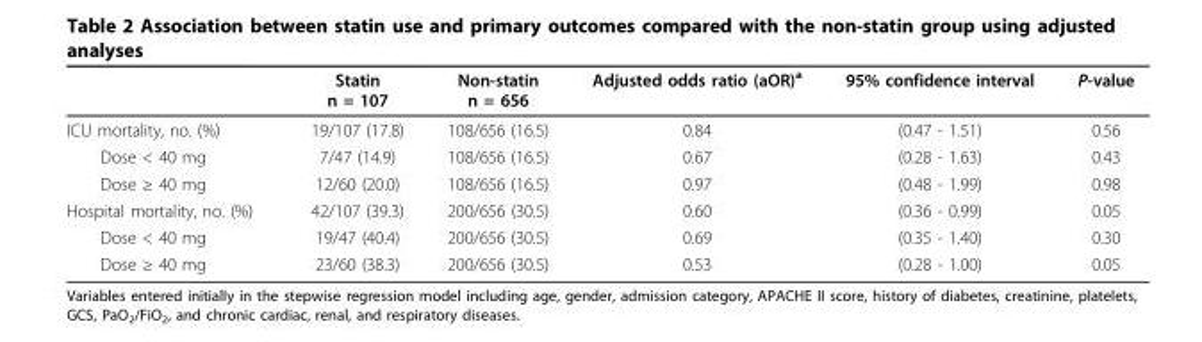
<table><thead><tr><td></td><td>Statin n = 107</td><td>Non-statin n = 656</td><td>Adjusted odds ratio (aOR)<sup>a</sup></td><td>95% confidence interval</td><td>P-value</td></tr></thead><tbody><tr><td>ICU mortality, no. (%)</td><td>19/107 (17.8)</td><td>108/656 (16.5)</td><td>0.84</td><td>(0.47 - 1.51)</td><td>0.56</td></tr><tr><td>Dose &lt; 40 mg</td><td>7/47 (14.9)</td><td>108/656 (16.5)</td><td>0.67</td><td>(0.28 - 1.63)</td><td>0.43</td></tr><tr><td>Dose ≥ 40 mg</td><td>12/60 (20.0)</td><td>108/656 (16.5)</td><td>0.97</td><td>(0.48 - 1.99)</td><td>0.98</td></tr><tr><td>Hospital mortality, no. (%)</td><td>42/107 (39.3)</td><td>200/656 (30.5)</td><td>0.60</td><td>(0.36 - 0.99)</td><td>0.05</td></tr><tr><td>Dose &lt; 40 mg</td><td>19/47 (40.4)</td><td>200/656 (30.5)</td><td>0.69</td><td>(0.35 - 1.40)</td><td>0.30</td></tr><tr><td>Dose ≥ 40 mg</td><td>23/60 (38.3)</td><td>200/656 (30.5)</td><td>0.53</td><td>(0.28 - 1.00)</td><td>0.05</td></tr></tbody></table>